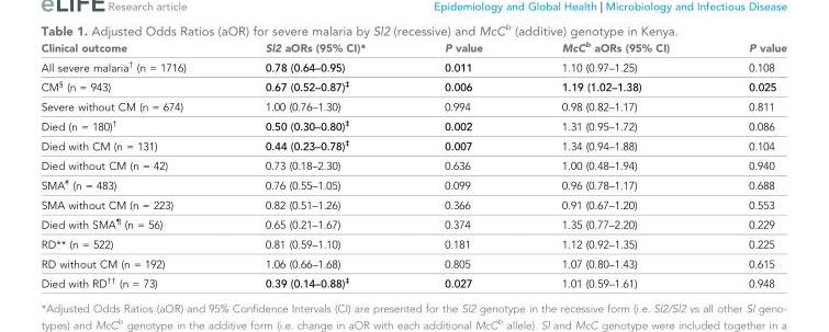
<table><thead><tr><td>Clinical outcome</td><td>Sl2 aORs (95% CI)*</td><td>P value</td><td>McC<sup>b</sup> aORs (95% CI)</td><td>P value</td></tr></thead><tbody><tr><td>All severe malaria<sup>†</sup> (n = 1716)</td><td>0.78 (0.64–0.95)</td><td>0.011</td><td>1.10 (0.97–1.25)</td><td>0.108</td></tr><tr><td>CM<sup>§</sup> (n = 943)</td><td>0.67 (0.52–0.87)<sup>‡</sup></td><td>0.006</td><td>1.19 (1.02–1.38)</td><td>0.025</td></tr><tr><td>Severe without CM (n = 674)</td><td>1.00 (0.76–1.30)</td><td>0.994</td><td>0.98 (0.82–1.17)</td><td>0.811</td></tr><tr><td>Died (n = 180)<sup>†</sup></td><td>0.50 (0.30–0.80)<sup>‡</sup></td><td>0.002</td><td>1.31 (0.95–1.72)</td><td>0.086</td></tr><tr><td>Died with CM (n = 131)</td><td>0.44 (0.23–0.78)<sup>‡</sup></td><td>0.007</td><td>1.34 (0.94–1.88)</td><td>0.104</td></tr><tr><td>Died without CM (n = 42)</td><td>0.73 (0.18–2.30)</td><td>0.636</td><td>1.00 (0.48–1.94)</td><td>0.940</td></tr><tr><td>SMA<sup>#</sup> (n = 483)</td><td>0.76 (0.55–1.05)</td><td>0.099</td><td>0.96 (0.78–1.17)</td><td>0.688</td></tr><tr><td>SMA without CM (n = 223)</td><td>0.82 (0.51–1.26)</td><td>0.366</td><td>0.91 (0.67–1.20)</td><td>0.553</td></tr><tr><td>Died with SMA<sup>¶</sup> (n = 56)</td><td>0.65 (0.21–1.67)</td><td>0.374</td><td>1.35 (0.77–2.20)</td><td>0.229</td></tr><tr><td>RD** (n = 522)</td><td>0.81 (0.59–1.10)</td><td>0.181</td><td>1.12 (0.92–1.35)</td><td>0.225</td></tr><tr><td>RD without CM (n = 192)</td><td>1.06 (0.66–1.68)</td><td>0.805</td><td>1.07 (0.80–1.43)</td><td>0.615</td></tr><tr><td>Died with RD<sup>††</sup> (n = 73)</td><td>0.39 (0.14–0.88)‡</td><td>0.027</td><td>1.01 (0.59–1.61)</td><td>0.948</td></tr></tbody></table>